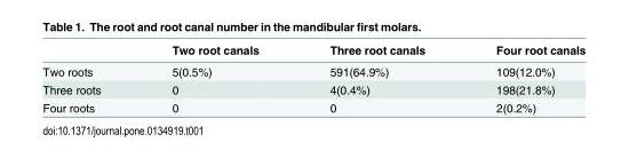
<table><thead><tr><td></td><td>Two root canals</td><td>Three root canals</td><td>Four root canals</td></tr></thead><tbody><tr><td>Two roots</td><td>5(0.5%)</td><td>591(64.9%)</td><td>109(12.0%)</td></tr><tr><td>Three roots</td><td>0</td><td>4(0.4%)</td><td>198(21.8%)</td></tr><tr><td>Four roots</td><td>0</td><td>0</td><td>2(0.2%)</td></tr></tbody></table>